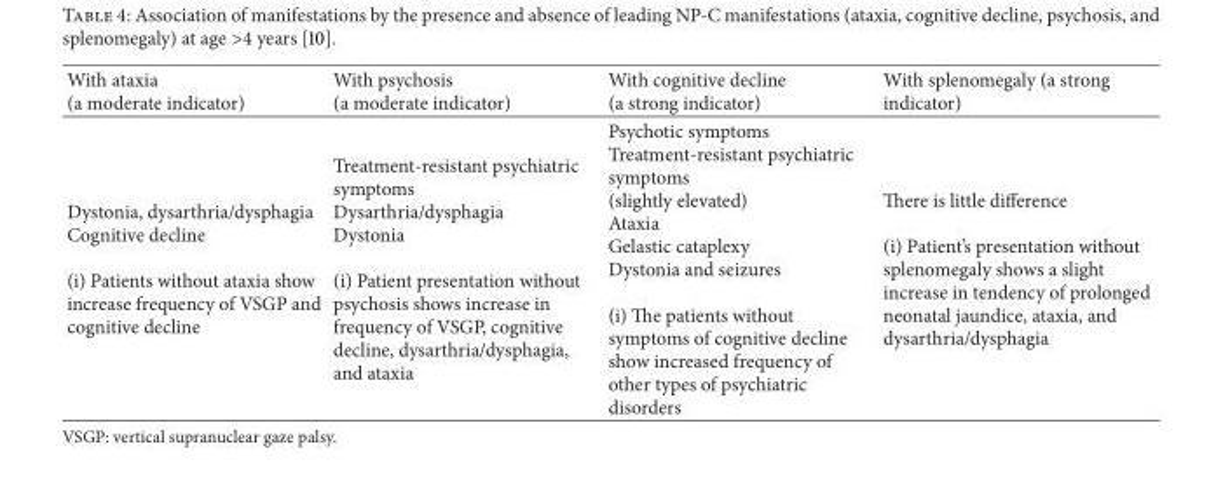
<table><thead><tr><td>With ataxia (a moderate indicator)</td><td>With psychosis (a moderate indicator)</td><td>With cognitive decline (a strong indicator)</td><td>With splenomegaly (a strong indicator)</td></tr></thead><tbody><tr><td>Dystonia, dysarthria/dysphagia Cognitive decline (i) Patients without ataxia show increase frequency of VSGP and cognitive decline</td><td>Treatment-resistant psychiatric symptoms Dysarthria/dysphagia Dystonia (i) Patient presentation without psychosis shows increase in frequency of VSGP, cognitive decline, dysarthria/dysphagia, and ataxia</td><td>Psychotic symptoms Treatment-resistant psychiatric symptoms (slightly elevated) Ataxia Gelastic cataplexy Dystonia and seizures (i) The patients without symptoms of cognitive decline show increased frequency of other types of psychiatric disorders</td><td>There is little difference (i) Patient’s presentation without splenomegaly shows a slight increase in tendency of prolonged neonatal jaundice, ataxia, and dysarthria/dysphagia</td></tr></tbody></table>